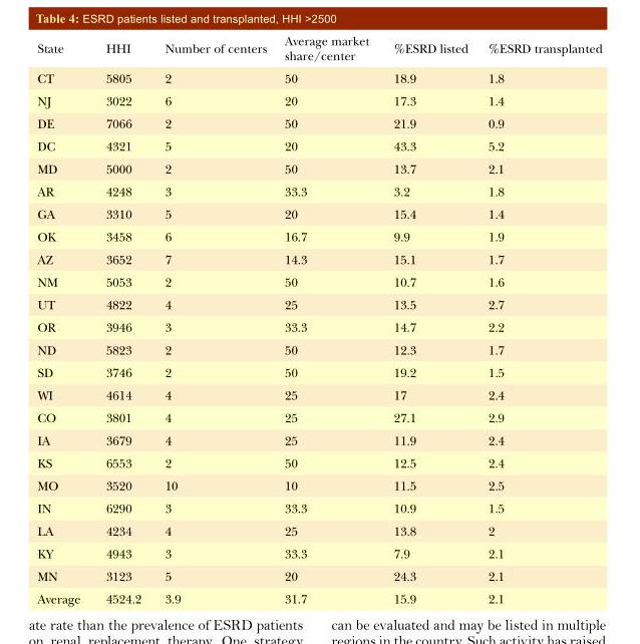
<table><thead><tr><td>State</td><td>HHI</td><td>Number of centers</td><td>Average market share/center</td><td>%ESRD listed</td><td>%ESRD transplanted</td></tr></thead><tbody><tr><td>CT</td><td>5805</td><td>2</td><td>50</td><td>18.9</td><td>1.8</td></tr><tr><td>NJ</td><td>3022</td><td>6</td><td>20</td><td>17.3</td><td>1.4</td></tr><tr><td>DE</td><td>7066</td><td>2</td><td>50</td><td>21.9</td><td>0.9</td></tr><tr><td>DC</td><td>4321</td><td>5</td><td>20</td><td>43.3</td><td>5.2</td></tr><tr><td>MD</td><td>5000</td><td>2</td><td>50</td><td>13.7</td><td>2.1</td></tr><tr><td>AR</td><td>4248</td><td>3</td><td>33.3</td><td>3.2</td><td>1.8</td></tr><tr><td>GA</td><td>3310</td><td>5</td><td>20</td><td>15.4</td><td>1.4</td></tr><tr><td>OK</td><td>3458</td><td>6</td><td>16.7</td><td>9.9</td><td>1.9</td></tr><tr><td>AZ</td><td>3652</td><td>7</td><td>14.3</td><td>15.1</td><td>1.7</td></tr><tr><td>NM</td><td>5053</td><td>2</td><td>50</td><td>10.7</td><td>1.6</td></tr><tr><td>UT</td><td>4822</td><td>4</td><td>25</td><td>13.5</td><td>2.7</td></tr><tr><td>OR</td><td>3946</td><td>3</td><td>33.3</td><td>14.7</td><td>2.2</td></tr><tr><td>ND</td><td>5823</td><td>2</td><td>50</td><td>12.3</td><td>1.7</td></tr><tr><td>SD</td><td>3746</td><td>2</td><td>50</td><td>19.2</td><td>1.5</td></tr><tr><td>WI</td><td>4614</td><td>4</td><td>25</td><td>17</td><td>2.4</td></tr><tr><td>CO</td><td>3801</td><td>4</td><td>25</td><td>27.1</td><td>2.9</td></tr><tr><td>IA</td><td>3679</td><td>4</td><td>25</td><td>11.9</td><td>2.4</td></tr><tr><td>KS</td><td>6553</td><td>2</td><td>50</td><td>12.5</td><td>2.4</td></tr><tr><td>MO</td><td>3520</td><td>10</td><td>10</td><td>11.5</td><td>2.5</td></tr><tr><td>IN</td><td>6290</td><td>3</td><td>33.3</td><td>10.9</td><td>1.5</td></tr><tr><td>LA</td><td>4234</td><td>4</td><td>25</td><td>13.8</td><td>2</td></tr><tr><td>KY</td><td>4943</td><td>3</td><td>33.3</td><td>7.9</td><td>2.1</td></tr><tr><td>MN</td><td>3123</td><td>5</td><td>20</td><td>24.3</td><td>2.1</td></tr><tr><td>Average</td><td>4524.2</td><td>3.9</td><td>31.7</td><td>15.9</td><td>2.1</td></tr></tbody></table>